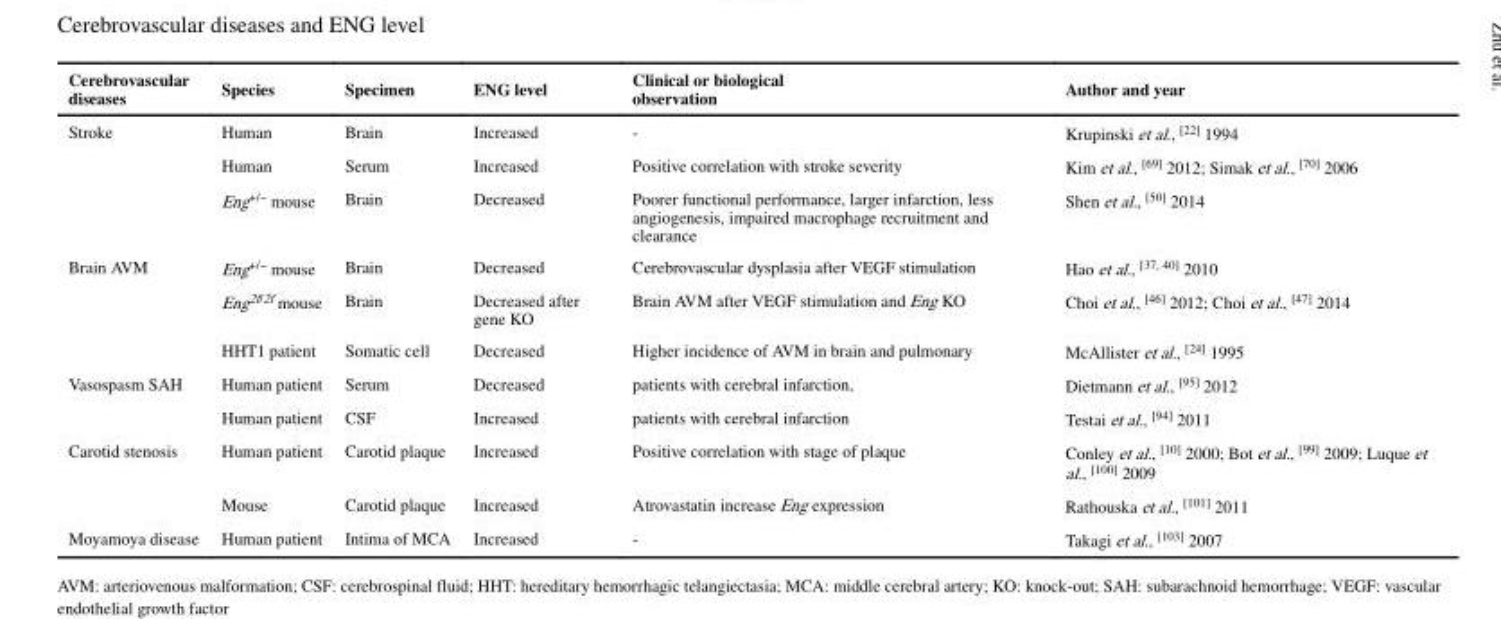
<table><thead><tr><td>Cerebrovascular diseases</td><td>Species</td><td>Specimen</td><td>ENG level</td><td>Clinical or biological observation</td><td>Author and year</td></tr></thead><tbody><tr><td rowspan="3">Stroke</td><td>Human</td><td>Brain</td><td>Increased</td><td>-</td><td>Krupinski et al., <sup>[22]</sup> 1994</td></tr><tr><td>Human</td><td>Serum</td><td>Increased</td><td>Positive correlation with stroke severity</td><td>Kim et al., <sup>[69]</sup> 2012; Simak et al., <sup>[70]</sup> 2006</td></tr><tr><td>Eng<sup>+/−</sup> mouse</td><td>Brain</td><td>Decreased</td><td>Poorer functional performance, larger infarction, less angiogenesis, impaired macrophage recruitment and clearance</td><td>Shen et al., <sup>[50]</sup> 2014</td></tr><tr><td rowspan="3">Brain AVM</td><td>Eng<sup>+/−</sup> mouse</td><td>Brain</td><td>Decreased</td><td>Cerebrovascular dysplasia after VEGF stimulation</td><td>Hao et al., <sup>[37, 40]</sup> 2010</td></tr><tr><td>Eng<sup>2f/2f</sup> mouse</td><td>Brain</td><td>Decreased after gene KO</td><td>Brain AVM after VEGF stimulation and Eng KO</td><td>Choi et al., <sup>[46]</sup> 2012; Choi et al., <sup>[47]</sup> 2014</td></tr><tr><td>HHT1 patient</td><td>Somatic cell</td><td>Decreased</td><td>Higher incidence of AVM in brain and pulmonary</td><td>McAllister et al., <sup>[24]</sup> 1995</td></tr><tr><td rowspan="2">Vasospasm SAH</td><td>Human patient</td><td>Serum</td><td>Decreased</td><td>patients with cerebral infarction,</td><td>Dietmann et al., <sup>[95]</sup> 2012</td></tr><tr><td>Human patient</td><td>CSF</td><td>Increased</td><td>patients with cerebral infarction</td><td>Testai et al., <sup>[94]</sup> 2011</td></tr><tr><td rowspan="2">Carotid stenosis</td><td>Human patient</td><td>Carotid plaque</td><td>Increased</td><td>Positive correlation with stage of plaque</td><td>Conley et al., <sup>[10]</sup> 2000; Bot et al., <sup>[99]</sup> 2009; Luque et al., <sup>[100]</sup> 2009</td></tr><tr><td>Mouse</td><td>Carotid plaque</td><td>Increased</td><td>Atrovastatin increase Eng expression</td><td>Rathouska et al., <sup>[101]</sup> 2011</td></tr><tr><td>Moyamoya disease</td><td>Human patient</td><td>Intima of MCA</td><td>Increased</td><td>-</td><td>Takagi et al., <sup>[103]</sup> 2007</td></tr></tbody></table>